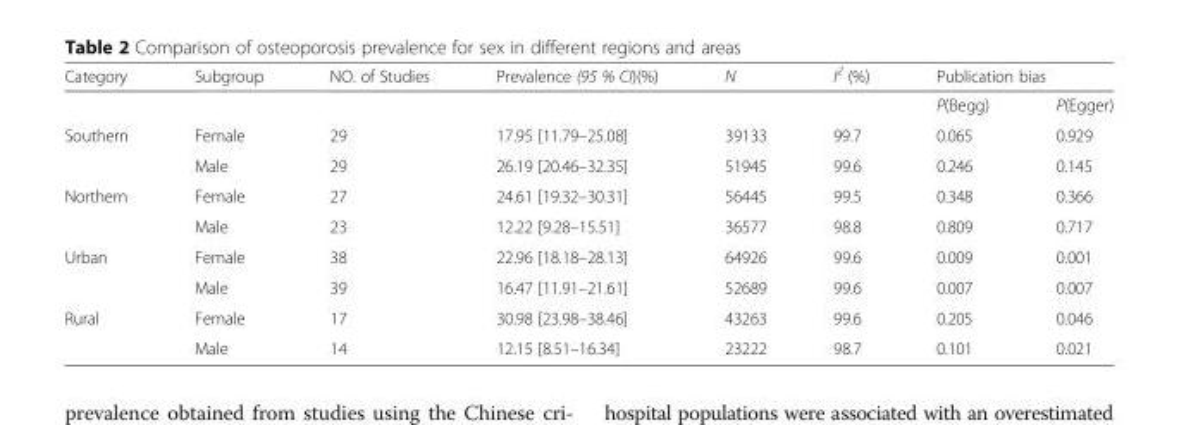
<table><thead><tr><td rowspan="2">Category</td><td rowspan="2">Subgroup</td><td rowspan="2">NO. of Studies</td><td rowspan="2">Prevalence (95 % CI)(%)</td><td rowspan="2">N</td><td rowspan="2">I<sup>2</sup> (%)</td><td colspan="2">Publication bias</td></tr><tr><td>P(Begg)</td><td>P(Egger)</td></tr></thead><tbody><tr><td rowspan="2">Southern</td><td>Female</td><td>29</td><td>17.95 [11.79–25.08]</td><td>39133</td><td>99.7</td><td>0.065</td><td>0.929</td></tr><tr><td>Male</td><td>29</td><td>26.19 [20.46–32.35]</td><td>51945</td><td>99.6</td><td>0.246</td><td>0.145</td></tr><tr><td rowspan="2">Northern</td><td>Female</td><td>27</td><td>24.61 [19.32–30.31]</td><td>56445</td><td>99.5</td><td>0.348</td><td>0.366</td></tr><tr><td>Male</td><td>23</td><td>12.22 [9.28–15.51]</td><td>36577</td><td>98.8</td><td>0.809</td><td>0.717</td></tr><tr><td rowspan="2">Urban</td><td>Female</td><td>38</td><td>22.96 [18.18–28.13]</td><td>64926</td><td>99.6</td><td>0.009</td><td>0.001</td></tr><tr><td>Male</td><td>39</td><td>16.47 [11.91–21.61]</td><td>52689</td><td>99.6</td><td>0.007</td><td>0.007</td></tr><tr><td rowspan="2">Rural</td><td>Female</td><td>17</td><td>30.98 [23.98–38.46]</td><td>43263</td><td>99.6</td><td>0.205</td><td>0.046</td></tr><tr><td>Male</td><td>14</td><td>12.15 [8.51–16.34]</td><td>23222</td><td>98.7</td><td>0.101</td><td>0.021</td></tr></tbody></table>